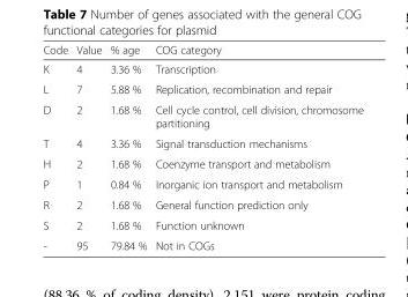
<table><thead><tr><td>Code</td><td>Value</td><td>% age</td><td>COG category</td></tr></thead><tbody><tr><td>K</td><td>4</td><td>3.36 %</td><td>Transcription</td></tr><tr><td>L</td><td>7</td><td>5.88 %</td><td>Replication, recombination and repair</td></tr><tr><td>D</td><td>2</td><td>1.68 %</td><td>Cell cycle control, cell division, chromosome partitioning</td></tr><tr><td>T</td><td>4</td><td>3.36 %</td><td>Signal transduction mechanisms</td></tr><tr><td>H</td><td>2</td><td>1.68 %</td><td>Coenzyme transport and metabolism</td></tr><tr><td>P</td><td>1</td><td>0.84 %</td><td>Inorganic ion transport and metabolism</td></tr><tr><td>R</td><td>2</td><td>1.68 %</td><td>General function prediction only</td></tr><tr><td>S</td><td>2</td><td>1.68 %</td><td>Function unknown</td></tr><tr><td>-</td><td>95</td><td>79.84 %</td><td>Not in COGs</td></tr></tbody></table>